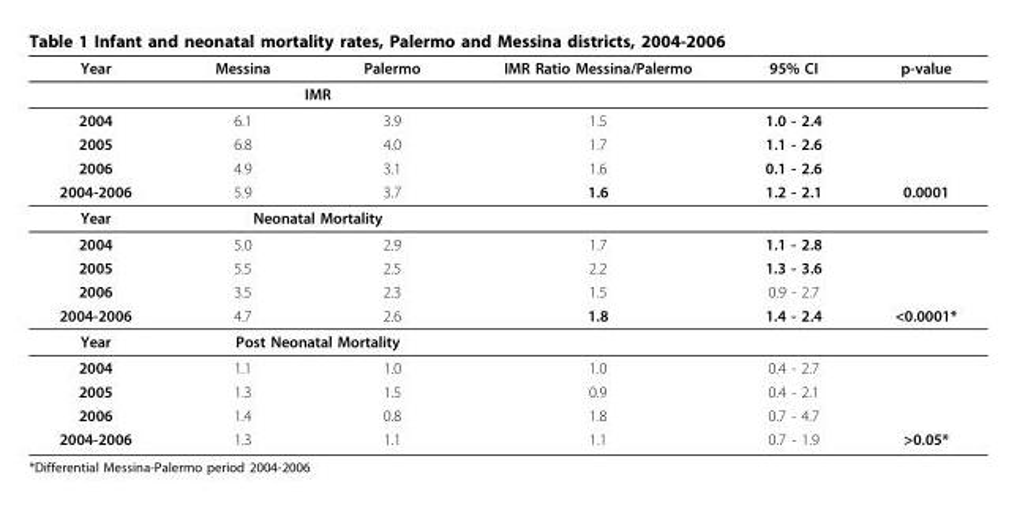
<table><thead><tr><td>Year</td><td>Messina</td><td>Palermo</td><td>IMR Ratio Messina/Palermo</td><td>95% CI</td><td>p-value</td></tr></thead><tbody><tr><td></td><td colspan="2">IMR</td><td></td><td></td><td></td></tr><tr><td>2004</td><td>6.1</td><td>3.9</td><td>1.5</td><td>1.0 - 2.4</td><td></td></tr><tr><td>2005</td><td>6.8</td><td>4.0</td><td>1.7</td><td>1.1 - 2.6</td><td></td></tr><tr><td>2006</td><td>4.9</td><td>3.1</td><td>1.6</td><td>0.1 - 2.6</td><td></td></tr><tr><td>2004-2006</td><td>5.9</td><td>3.7</td><td>1.6</td><td>1.2 - 2.1</td><td>0.0001</td></tr><tr><td>Year</td><td colspan="2">Neonatal Mortality</td><td></td><td></td><td></td></tr><tr><td>2004</td><td>5.0</td><td>2.9</td><td>1.7</td><td>1.1 - 2.8</td><td></td></tr><tr><td>2005</td><td>5.5</td><td>2.5</td><td>2.2</td><td>1.3 - 3.6</td><td></td></tr><tr><td>2006</td><td>3.5</td><td>2.3</td><td>1.5</td><td>0.9 - 2.7</td><td></td></tr><tr><td>2004-2006</td><td>4.7</td><td>2.6</td><td>1.8</td><td>1.4 - 2.4</td><td>&lt;0.0001*</td></tr><tr><td>Year</td><td colspan="2">Post Neonatal Mortality</td><td></td><td></td><td></td></tr><tr><td>2004</td><td>1.1</td><td>1.0</td><td>1.0</td><td>0.4 - 2.7</td><td></td></tr><tr><td>2005</td><td>1.3</td><td>1.5</td><td>0.9</td><td>0.4 - 2.1</td><td></td></tr><tr><td>2006</td><td>1.4</td><td>0.8</td><td>1.8</td><td>0.7 - 4.7</td><td></td></tr><tr><td>2004-2006</td><td>1.3</td><td>1.1</td><td>1.1</td><td>0.7 - 1.9</td><td>&gt;0.05*</td></tr></tbody></table>